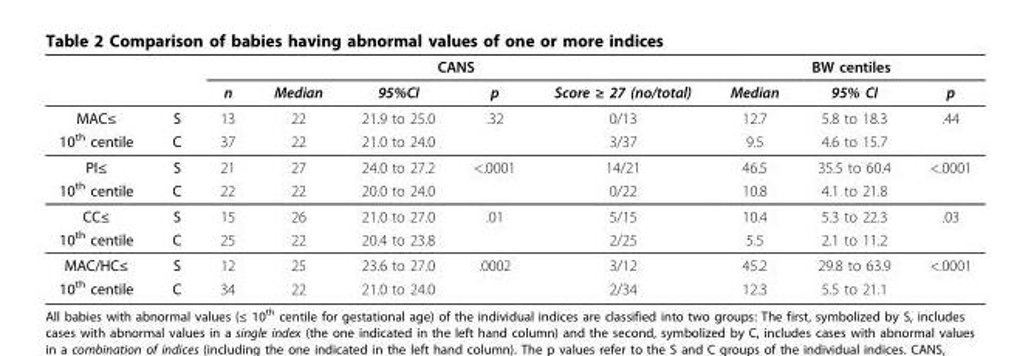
<table><thead><tr><td rowspan="2"></td><td rowspan="2"></td><td colspan="5">CANS</td><td colspan="3">BW centiles</td></tr><tr><td>n</td><td>Median</td><td>95%CI</td><td>p</td><td>Score ≥ 27 (no/total)</td><td>Median</td><td>95% CI</td><td>p</td></tr></thead><tbody><tr><td>MAC≤</td><td>S</td><td>13</td><td>22</td><td>21.9 to 25.0</td><td>.32</td><td>0/13</td><td>12.7</td><td>5.8 to 18.3</td><td>.44</td></tr><tr><td>10<sup>th</sup> centile</td><td>C</td><td>37</td><td>22</td><td>21.0 to 24.0</td><td></td><td>3/37</td><td>9.5</td><td>4.6 to 15.7</td><td></td></tr><tr><td>PI≤</td><td>S</td><td>21</td><td>27</td><td>24.0 to 27.2</td><td>&lt;.0001</td><td>14/21</td><td>46.5</td><td>35.5 to 60.4</td><td>&lt;.0001</td></tr><tr><td>10<sup>th</sup> centile</td><td>C</td><td>22</td><td>22</td><td>20.0 to 24.0</td><td></td><td>0/22</td><td>10.8</td><td>4.1 to 21.8</td><td></td></tr><tr><td>CC≤</td><td>S</td><td>15</td><td>26</td><td>21.0 to 27.0</td><td>.01</td><td>5/15</td><td>10.4</td><td>5.3 to 22.3</td><td>.03</td></tr><tr><td>10<sup>th</sup> centile</td><td>C</td><td>25</td><td>22</td><td>20.4 to 23.8</td><td></td><td>2/25</td><td>5.5</td><td>2.1 to 11.2</td><td></td></tr><tr><td>MAC/HC≤</td><td>S</td><td>12</td><td>25</td><td>23.6 to 27.0</td><td>.0002</td><td>3/12</td><td>45.2</td><td>29.8 to 63.9</td><td>&lt;.0001</td></tr><tr><td>10<sup>th</sup> centile</td><td>C</td><td>34</td><td>22</td><td>21.0 to 24.0</td><td></td><td>2/34</td><td>12.3</td><td>5.5 to 21.1</td><td></td></tr></tbody></table>